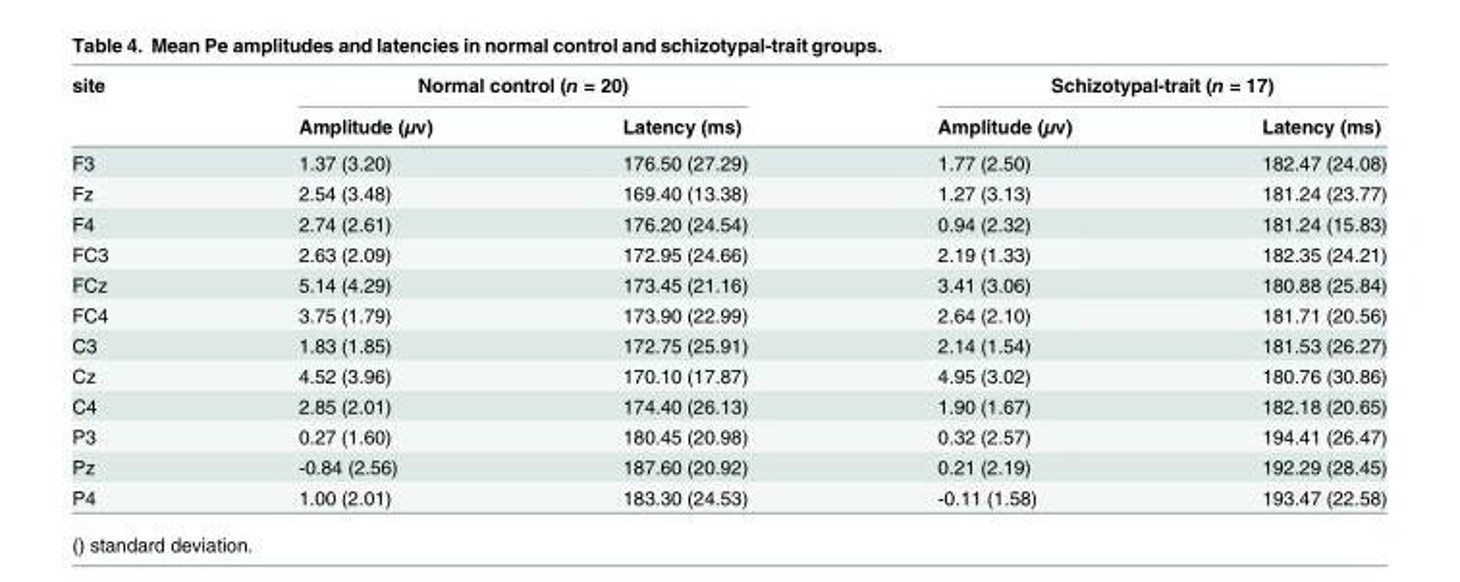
<table><thead><tr><td rowspan="2">site</td><td colspan="2">Normal control (n = 20)</td><td colspan="2">Schizotypal-trait (n = 17)</td></tr><tr><td>Amplitude (μv)</td><td>Latency (ms)</td><td>Amplitude (μv)</td><td>Latency (ms)</td></tr></thead><tbody><tr><td>F3</td><td>1.37 (3.20)</td><td>176.50 (27.29)</td><td>1.77 (2.50)</td><td>182.47 (24.08)</td></tr><tr><td>Fz</td><td>2.54 (3.48)</td><td>169.40 (13.38)</td><td>1.27 (3.13)</td><td>181.24 (23.77)</td></tr><tr><td>F4</td><td>2.74 (2.61)</td><td>176.20 (24.54)</td><td>0.94 (2.32)</td><td>181.24 (15.83)</td></tr><tr><td>FC3</td><td>2.63 (2.09)</td><td>172.95 (24.66)</td><td>2.19 (1.33)</td><td>182.35 (24.21)</td></tr><tr><td>FCz</td><td>5.14 (4.29)</td><td>173.45 (21.16)</td><td>3.41 (3.06)</td><td>180.88 (25.84)</td></tr><tr><td>FC4</td><td>3.75 (1.79)</td><td>173.90 (22.99)</td><td>2.64 (2.10)</td><td>181.71 (20.56)</td></tr><tr><td>C3</td><td>1.83 (1.85)</td><td>172.75 (25.91)</td><td>2.14 (1.54)</td><td>181.53 (26.27)</td></tr><tr><td>Cz</td><td>4.52 (3.96)</td><td>170.10 (17.87)</td><td>4.95 (3.02)</td><td>180.76 (30.86)</td></tr><tr><td>C4</td><td>2.85 (2.01)</td><td>174.40 (26.13)</td><td>1.90 (1.67)</td><td>182.18 (20.65)</td></tr><tr><td>P3</td><td>0.27 (1.60)</td><td>180.45 (20.98)</td><td>0.32 (2.57)</td><td>194.41 (26.47)</td></tr><tr><td>Pz</td><td>-0.84 (2.56)</td><td>187.60 (20.92)</td><td>0.21 (2.19)</td><td>192.29 (28.45)</td></tr><tr><td>P4</td><td>1.00 (2.01)</td><td>183.30 (24.53)</td><td>-0.11 (1.58)</td><td>193.47 (22.58)</td></tr></tbody></table>